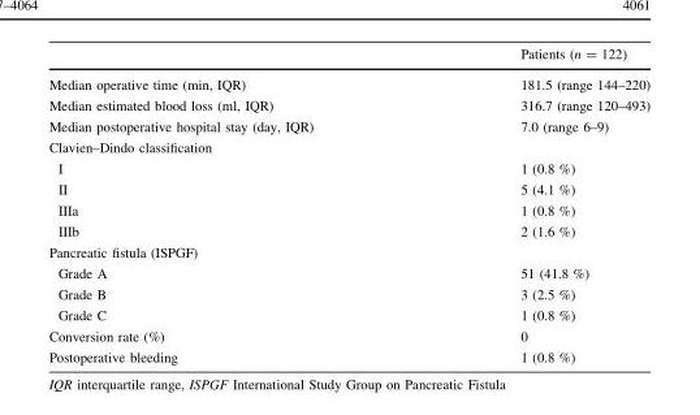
<table><thead><tr><td></td><td>Patients (n = 122)</td></tr></thead><tbody><tr><td>Median operative time (min, IQR)</td><td>181.5 (range 144–220)</td></tr><tr><td>Median estimated blood loss (ml, IQR)</td><td>316.7 (range 120–493)</td></tr><tr><td>Median postoperative hospital stay (day, IQR)</td><td>7.0 (range 6–9)</td></tr><tr><td colspan="2">Clavien–Dindo classification</td></tr><tr><td>I</td><td>1 (0.8 %)</td></tr><tr><td>II</td><td>5 (4.1 %)</td></tr><tr><td>IIIa</td><td>1 (0.8 %)</td></tr><tr><td>IIIb</td><td>2 (1.6 %)</td></tr><tr><td colspan="2">Pancreatic fistula (ISPGF)</td></tr><tr><td>Grade A</td><td>51 (41.8 %)</td></tr><tr><td>Grade B</td><td>3 (2.5 %)</td></tr><tr><td>Grade C</td><td>1 (0.8 %)</td></tr><tr><td>Conversion rate (%)</td><td>0</td></tr><tr><td>Postoperative bleeding</td><td>1 (0.8 %)</td></tr></tbody></table>